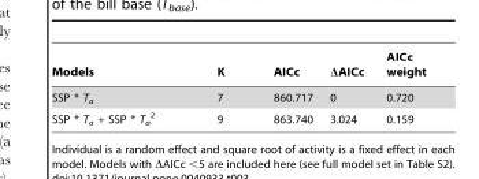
<table><thead><tr><td>Models</td><td>K</td><td>AICc</td><td>ΔAICc</td><td>AICc weight</td></tr></thead><tbody><tr><td>SSP * T<sub>a</sub></td><td>7</td><td>860.717</td><td>0</td><td>0.720</td></tr><tr><td>SSP * T<sub>a</sub> + SSP * T<sub>a</sub> <sup>2</sup></td><td>9</td><td>863.740</td><td>3.024</td><td>0.159</td></tr></tbody></table>